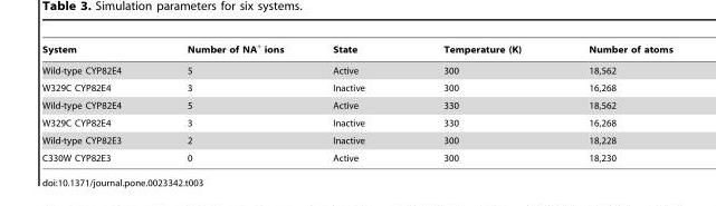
<table><thead><tr><td>System</td><td>Number of NA<sup>+</sup> ions</td><td>State</td><td>Temperature (K)</td><td>Number of atoms</td></tr></thead><tbody><tr><td>Wild-type CYP82E4</td><td>5</td><td>Active</td><td>300</td><td>18,562</td></tr><tr><td>W329C CYP82E4</td><td>3</td><td>Inactive</td><td>300</td><td>16,268</td></tr><tr><td>Wild-type CYP82E4</td><td>5</td><td>Active</td><td>330</td><td>18,562</td></tr><tr><td>W329C CYP82E4</td><td>3</td><td>Inactive</td><td>330</td><td>16,268</td></tr><tr><td>Wild-type CYP82E3</td><td>2</td><td>Inactive</td><td>300</td><td>18,228</td></tr><tr><td>C330W CYP82E3</td><td>0</td><td>Active</td><td>300</td><td>18,230</td></tr></tbody></table>